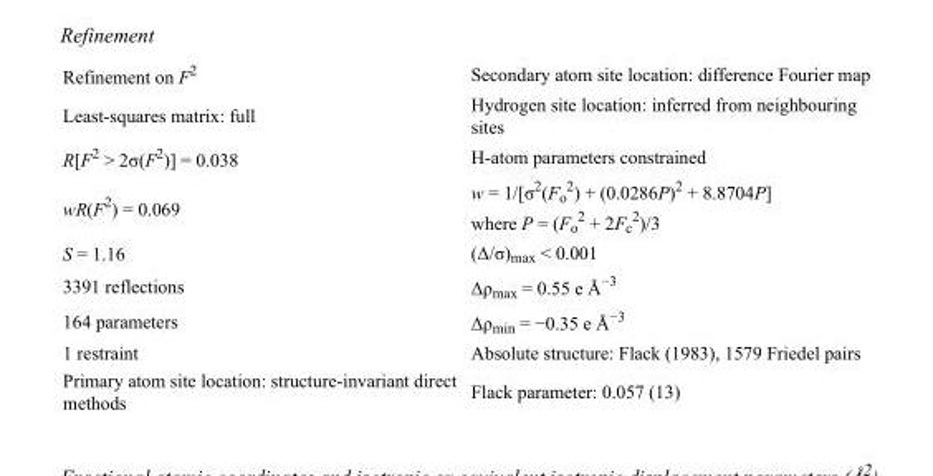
<table><tbody><tr><td>Refinement on F<sup>2</sup></td><td>Secondary atom site location: difference Fourier map</td></tr><tr><td>Least-squares matrix: full</td><td>Hydrogen site location: inferred from neighbouring sites</td></tr><tr><td>R[F<sup>2</sup> &gt; 2σ(F<sup>2</sup>)] = 0.038</td><td>H-atom parameters constrained</td></tr><tr><td>wR(F<sup>2</sup>) = 0.069</td><td>w = 1/[σ<sup>2</sup>(F<sub>o</sub> <sup>2</sup>) + (0.0286P)<sup>2</sup> + 8.8704P] where P = (F<sub>o</sub> <sup>2</sup> + 2F<sub>c</sub> <sup>2</sup>)/3</td></tr><tr><td>S = 1.16</td><td>(Δ/σ)<sub>max</sub> &lt; 0.001</td></tr><tr><td>3391 reflections</td><td>Δρ<sub>max</sub> = 0.55 e Å<sup>−3</sup></td></tr><tr><td>164 parameters</td><td>Δρ<sub>min</sub> = −0.35 e Å<sup>−3</sup></td></tr><tr><td>1 restraint</td><td>Absolute structure: Flack (1983), 1579 Friedel pairs</td></tr><tr><td>Primary atom site location: structure-invariant direct methods</td><td>Flack parameter: 0.057 (13)</td></tr></tbody></table>